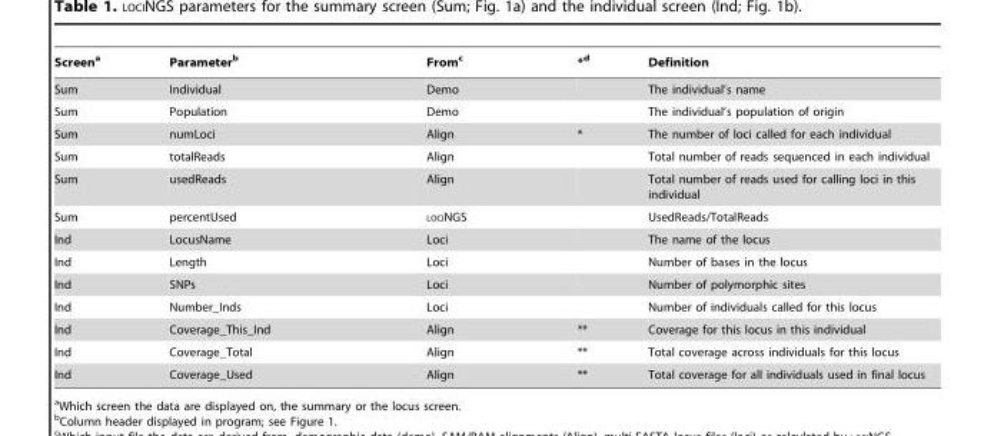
<table><thead><tr><td>Screen<sup>a</sup></td><td>Parameter<sup>b</sup></td><td>From<sup>c</sup></td><td>*<sup>d</sup></td><td>Definition</td></tr></thead><tbody><tr><td>Sum</td><td>Individual</td><td>Demo</td><td></td><td>The individual’s name</td></tr><tr><td>Sum</td><td>Population</td><td>Demo</td><td></td><td>The individual’s population of origin</td></tr><tr><td>Sum</td><td>numLoci</td><td>Align</td><td>*</td><td>The number of loci called for each individual</td></tr><tr><td>Sum</td><td>totalReads</td><td>Align</td><td></td><td>Total number of reads sequenced in each individual</td></tr><tr><td>Sum</td><td>usedReads</td><td>Align</td><td></td><td>Total number of reads used for calling loci in this individual</td></tr><tr><td>Sum</td><td>percentUsed</td><td>LOCINGS</td><td></td><td>UsedReads/TotalReads</td></tr><tr><td>Ind</td><td>LocusName</td><td>Loci</td><td></td><td>The name of the locus</td></tr><tr><td>Ind</td><td>Length</td><td>Loci</td><td></td><td>Number of bases in the locus</td></tr><tr><td>Ind</td><td>SNPs</td><td>Loci</td><td></td><td>Number of polymorphic sites</td></tr><tr><td>Ind</td><td>Number_Inds</td><td>Loci</td><td></td><td>Number of individuals called for this locus</td></tr><tr><td>Ind</td><td>Coverage_This_Ind</td><td>Align</td><td>**</td><td>Coverage for this locus in this individual</td></tr><tr><td>Ind</td><td>Coverage_Total</td><td>Align</td><td>**</td><td>Total coverage across individuals for this locus</td></tr><tr><td>Ind</td><td>Coverage_Used</td><td>Align</td><td>**</td><td>Total coverage for all individuals used in final locus</td></tr></tbody></table>